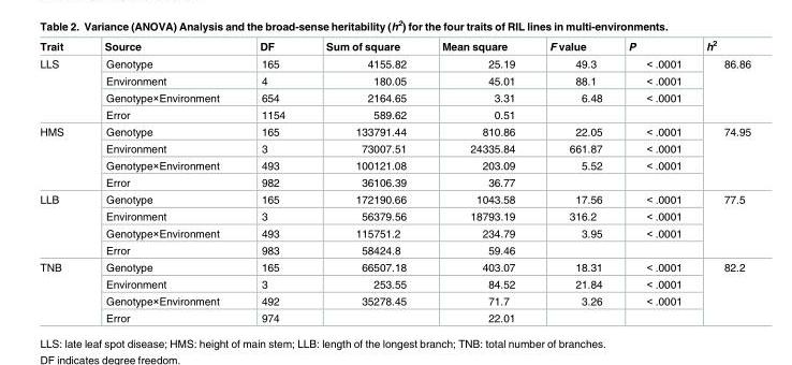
<table><thead><tr><td>Trait</td><td>Source</td><td>DF</td><td>Sum of square</td><td>Mean square</td><td>F value</td><td>P</td><td>h<sup>2</sup></td></tr></thead><tbody><tr><td rowspan="4">LLS</td><td>Genotype</td><td>165</td><td>4155.82</td><td>25.19</td><td>49.3</td><td>&lt; .0001</td><td rowspan="4">86.86</td></tr><tr><td>Environment</td><td>4</td><td>180.05</td><td>45.01</td><td>88.1</td><td>&lt; .0001</td></tr><tr><td>Genotype×Environment</td><td>654</td><td>2164.65</td><td>3.31</td><td>6.48</td><td>&lt; .0001</td></tr><tr><td>Error</td><td>1154</td><td>589.62</td><td>0.51</td><td></td><td></td></tr><tr><td rowspan="4">HMS</td><td>Genotype</td><td>165</td><td>133791.44</td><td>810.86</td><td>22.05</td><td>&lt; .0001</td><td rowspan="4">74.95</td></tr><tr><td>Environment</td><td>3</td><td>73007.51</td><td>24335.84</td><td>661.87</td><td>&lt; .0001</td></tr><tr><td>Genotype×Environment</td><td>493</td><td>100121.08</td><td>203.09</td><td>5.52</td><td>&lt; .0001</td></tr><tr><td>Error</td><td>982</td><td>36106.39</td><td>36.77</td><td></td><td></td></tr><tr><td rowspan="4">LLB</td><td>Genotype</td><td>165</td><td>172190.66</td><td>1043.58</td><td>17.56</td><td>&lt; .0001</td><td rowspan="4">77.5</td></tr><tr><td>Environment</td><td>3</td><td>56379.56</td><td>18793.19</td><td>316.2</td><td>&lt; .0001</td></tr><tr><td>Genotype×Environment</td><td>493</td><td>115751.2</td><td>234.79</td><td>3.95</td><td>&lt; .0001</td></tr><tr><td>Error</td><td>983</td><td>58424.8</td><td>59.46</td><td></td><td></td></tr><tr><td rowspan="4">TNB</td><td>Genotype</td><td>165</td><td>66507.18</td><td>403.07</td><td>18.31</td><td>&lt; .0001</td><td rowspan="4">82.2</td></tr><tr><td>Environment</td><td>3</td><td>253.55</td><td>84.52</td><td>21.84</td><td>&lt; .0001</td></tr><tr><td>Genotype×Environment</td><td>492</td><td>35278.45</td><td>71.7</td><td>3.26</td><td>&lt; .0001</td></tr><tr><td>Error</td><td>974</td><td></td><td>22.01</td><td></td><td></td></tr></tbody></table>